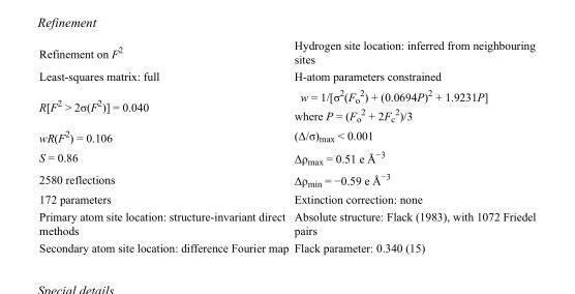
<table><tbody><tr><td>Refinement on F<sup>2</sup></td><td>Hydrogen site location: inferred from neighbouring sites</td></tr><tr><td>Least-squares matrix: full</td><td>H-atom parameters constrained</td></tr><tr><td>R[F<sup>2</sup> &gt; 2σ(F<sup>2</sup>)] = 0.040</td><td>w = 1/[σ<sup>2</sup>(F<sub>o</sub> <sup>2</sup>) + (0.0694P)<sup>2</sup> + 1.9231P] where P = (F<sub>o</sub> <sup>2</sup> + 2F<sub>c</sub> <sup>2</sup>)/3</td></tr><tr><td>wR(F<sup>2</sup>) = 0.106</td><td>(Δ/σ)<sub>max</sub> &lt; 0.001</td></tr><tr><td>S = 0.86</td><td>Δρ<sub>max</sub> = 0.51 e Å<sup>−3</sup></td></tr><tr><td>2580 reflections</td><td>Δρ<sub>min</sub> = −0.59 e Å<sup>−3</sup></td></tr><tr><td>172 parameters</td><td>Extinction correction: none</td></tr><tr><td>Primary atom site location: structure-invariant direct methods</td><td>Absolute structure: Flack (1983), with 1072 Friedel pairs</td></tr><tr><td>Secondary atom site location: difference Fourier map</td><td>Flack parameter: 0.340 (15)</td></tr></tbody></table>